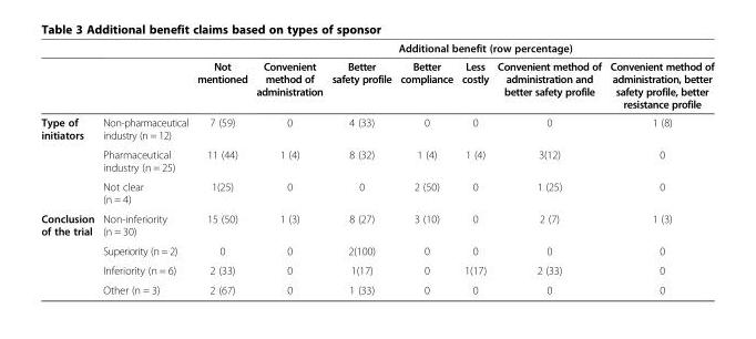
<table><thead><tr><td rowspan="2"></td><td rowspan="2"></td><td rowspan="2">Not mentioned</td><td colspan="6">Additional benefit (row percentage)</td></tr><tr><td>Convenient method of administration</td><td>Better safety profile</td><td>Better compliance</td><td>Less costly</td><td>Convenient method of administration and better safety profile</td><td>Convenient method of administration, better safety profile, better resistance profile</td></tr></thead><tbody><tr><td rowspan="3">Type of initiators</td><td>Non-pharmaceutical industry (n = 12)</td><td>7 (59)</td><td>0</td><td>4 (33)</td><td>0</td><td>0</td><td>0</td><td>1 (8)</td></tr><tr><td>Pharmaceutical industry (n = 25)</td><td>11 (44)</td><td>1 (4)</td><td>8 (32)</td><td>1 (4)</td><td>1 (4)</td><td>3(12)</td><td>0</td></tr><tr><td>Not clear (n = 4)</td><td>1(25)</td><td>0</td><td>0</td><td>2 (50)</td><td>0</td><td>1 (25)</td><td>0</td></tr><tr><td rowspan="4">Conclusion of the trial</td><td>Non-inferiority (n = 30)</td><td>15 (50)</td><td>1 (3)</td><td>8 (27)</td><td>3 (10)</td><td>0</td><td>2 (7)</td><td>1 (3)</td></tr><tr><td>Superiority (n = 2)</td><td>0</td><td>0</td><td>2(100)</td><td>0</td><td>0</td><td>0</td><td>0</td></tr><tr><td>Inferiority (n = 6)</td><td>2 (33)</td><td>0</td><td>1(17)</td><td>0</td><td>1(17)</td><td>2 (33)</td><td>0</td></tr><tr><td>Other (n = 3)</td><td>2 (67)</td><td>0</td><td>1 (33)</td><td>0</td><td>0</td><td>0</td><td>0</td></tr></tbody></table>